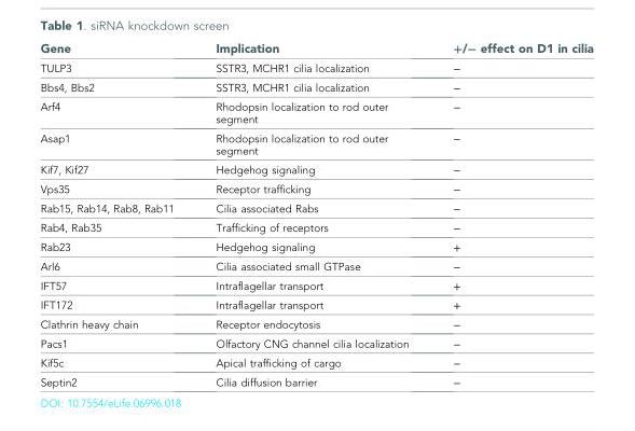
<table><thead><tr><td>Gene</td><td>Implication</td><td>+/− effect on D1 in cilia</td></tr></thead><tbody><tr><td>TULP3</td><td>SSTR3, MCHR1 cilia localization</td><td>−</td></tr><tr><td>Bbs4, Bbs2</td><td>SSTR3, MCHR1 cilia localization</td><td>−</td></tr><tr><td>Arf4</td><td>Rhodopsin localization to rod outer segment</td><td>−</td></tr><tr><td>Asap1</td><td>Rhodopsin localization to rod outer segment</td><td>−</td></tr><tr><td>Kif7, Kif27</td><td>Hedgehog signaling</td><td>−</td></tr><tr><td>Vps35</td><td>Receptor trafficking</td><td>−</td></tr><tr><td>Rab15, Rab14, Rab8, Rab11</td><td>Cilia associated Rabs</td><td>−</td></tr><tr><td>Rab4, Rab35</td><td>Trafficking of receptors</td><td>−</td></tr><tr><td>Rab23</td><td>Hedgehog signaling</td><td>+</td></tr><tr><td>Arl6</td><td>Cilia associated small GTPase</td><td>−</td></tr><tr><td>IFT57</td><td>Intraflagellar transport</td><td>+</td></tr><tr><td>IFT172</td><td>Intraflagellar transport</td><td>+</td></tr><tr><td>Clathrin heavy chain</td><td>Receptor endocytosis</td><td>−</td></tr><tr><td>Pacs1</td><td>Olfactory CNG channel cilia localization</td><td>−</td></tr><tr><td>Kif5c</td><td>Apical trafficking of cargo</td><td>−</td></tr><tr><td>Septin2</td><td>Cilia diffusion barrier</td><td>−</td></tr></tbody></table>